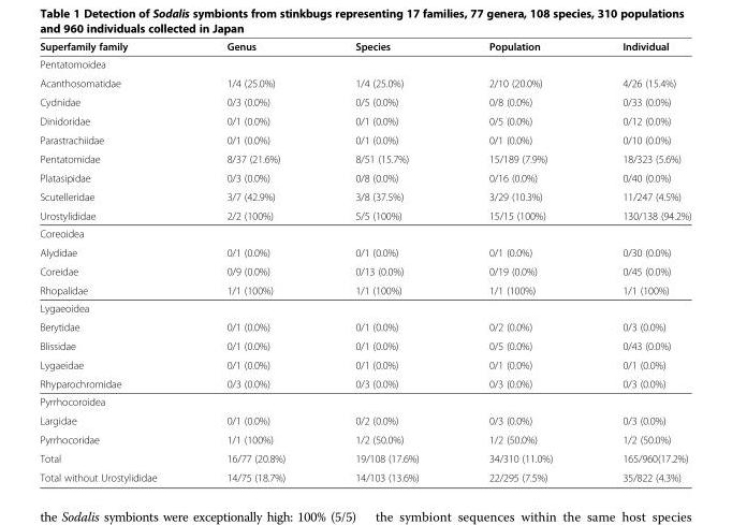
<table><thead><tr><td>Superfamily family</td><td>Genus</td><td>Species</td><td>Population</td><td>Individual</td></tr></thead><tbody><tr><td colspan="5">Pentatomoidea</td></tr><tr><td>Acanthosomatidae</td><td>1/4 (25.0%)</td><td>1/4 (25.0%)</td><td>2/10 (20.0%)</td><td>4/26 (15.4%)</td></tr><tr><td>Cydnidae</td><td>0/3 (0.0%)</td><td>0/5 (0.0%)</td><td>0/8 (0.0%)</td><td>0/33 (0.0%)</td></tr><tr><td>Dinidoridae</td><td>0/1 (0.0%)</td><td>0/1 (0.0%)</td><td>0/5 (0.0%)</td><td>0/12 (0.0%)</td></tr><tr><td>Parastrachiidae</td><td>0/1 (0.0%)</td><td>0/1 (0.0%)</td><td>0/1 (0.0%)</td><td>0/10 (0.0%)</td></tr><tr><td>Pentatomidae</td><td>8/37 (21.6%)</td><td>8/51 (15.7%)</td><td>15/189 (7.9%)</td><td>18/323 (5.6%)</td></tr><tr><td>Platasipidae</td><td>0/3 (0.0%)</td><td>0/8 (0.0%)</td><td>0/16 (0.0%)</td><td>0/40 (0.0%)</td></tr><tr><td>Scutelleridae</td><td>3/7 (42.9%)</td><td>3/8 (37.5%)</td><td>3/29 (10.3%)</td><td>11/247 (4.5%)</td></tr><tr><td>Urostylididae</td><td>2/2 (100%)</td><td>5/5 (100%)</td><td>15/15 (100%)</td><td>130/138 (94.2%)</td></tr><tr><td colspan="5">Coreoidea</td></tr><tr><td>Alydidae</td><td>0/1 (0.0%)</td><td>0/1 (0.0%)</td><td>0/1 (0.0%)</td><td>0/30 (0.0%)</td></tr><tr><td>Coreidae</td><td>0/9 (0.0%)</td><td>0/13 (0.0%)</td><td>0/19 (0.0%)</td><td>0/45 (0.0%)</td></tr><tr><td>Rhopalidae</td><td>1/1 (100%)</td><td>1/1 (100%)</td><td>1/1 (100%)</td><td>1/1 (100%)</td></tr><tr><td colspan="5">Lygaeoidea</td></tr><tr><td>Berytidae</td><td>0/1 (0.0%)</td><td>0/1 (0.0%)</td><td>0/2 (0.0%)</td><td>0/3 (0.0%)</td></tr><tr><td>Blissidae</td><td>0/1 (0.0%)</td><td>0/1 (0.0%)</td><td>0/5 (0.0%)</td><td>0/43 (0.0%)</td></tr><tr><td>Lygaeidae</td><td>0/1 (0.0%)</td><td>0/1 (0.0%)</td><td>0/1 (0.0%)</td><td>0/1 (0.0%)</td></tr><tr><td>Rhyparochromidae</td><td>0/3 (0.0%)</td><td>0/3 (0.0%)</td><td>0/3 (0.0%)</td><td>0/3 (0.0%)</td></tr><tr><td colspan="5">Pyrrhocoroidea</td></tr><tr><td>Largidae</td><td>0/1 (0.0%)</td><td>0/2 (0.0%)</td><td>0/3 (0.0%)</td><td>0/3 (0.0%)</td></tr><tr><td>Pyrrhocoridae</td><td>1/1 (100%)</td><td>1/2 (50.0%)</td><td>1/2 (50.0%)</td><td>1/2 (50.0%)</td></tr><tr><td>Total</td><td>16/77 (20.8%)</td><td>19/108 (17.6%)</td><td>34/310 (11.0%)</td><td>165/960(17.2%)</td></tr><tr><td>Total without Urostylididae</td><td>14/75 (18.7%)</td><td>14/103 (13.6%)</td><td>22/295 (7.5%)</td><td>35/822 (4.3%)</td></tr></tbody></table>